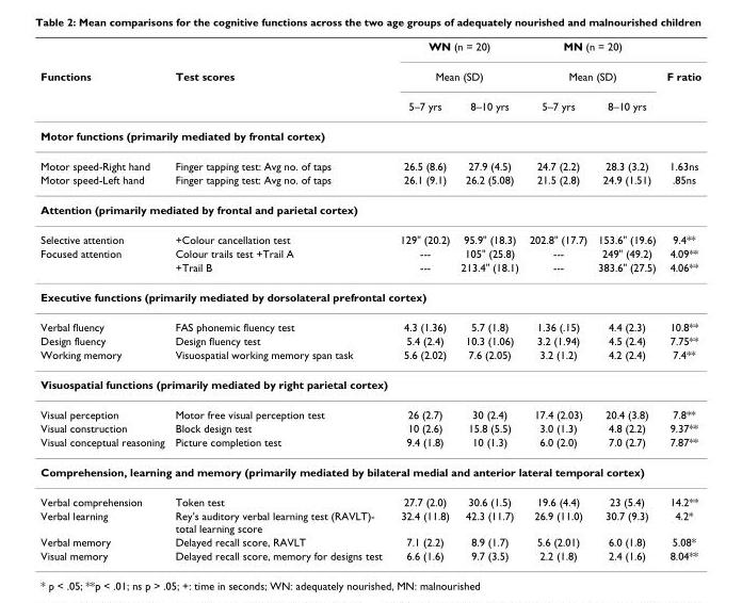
<table><thead><tr><td rowspan="3">Functions</td><td rowspan="3">Test scores</td><td rowspan="2" colspan="2">WN (n = 20) Mean (SD)</td><td rowspan="2" colspan="2">MN (n = 20) Mean (SD)</td><td rowspan="3">F ratio</td></tr><tr></tr><tr><td>5–7 yrs</td><td>8–10 yrs</td><td>5–7 yrs</td><td>8–10 yrs</td></tr></thead><tbody><tr><td colspan="7">Motor functions (primarily mediated by frontal cortex)</td></tr><tr><td>Motor speed-Right hand</td><td>Finger tapping test: Avg no. of taps</td><td>26.5 (8.6)</td><td>27.9 (4.5)</td><td>24.7 (2.2)</td><td>28.3 (3.2)</td><td>1.63ns</td></tr><tr><td>Motor speed-Left hand</td><td>Finger tapping test: Avg no. of taps</td><td>26.1 (9.1)</td><td>26.2 (5.08)</td><td>21.5 (2.8)</td><td>24.9 (1.51)</td><td>.85ns</td></tr><tr><td colspan="7">Attention (primarily mediated by frontal and parietal cortex)</td></tr><tr><td>Selective attention</td><td>+Colour cancellation test</td><td>129&quot; (20.2)</td><td>95.9&quot; (18.3)</td><td>202.8&quot; (17.7)</td><td>153.6&quot; (19.6)</td><td>9.4**</td></tr><tr><td rowspan="2">Focused attention</td><td>Colour trails test +Trail A</td><td>---</td><td>105&quot; (25.8)</td><td>---</td><td>249&quot; (49.2)</td><td>4.09**</td></tr><tr><td>+Trail B</td><td>---</td><td>213.4&quot; (18.1)</td><td>---</td><td>383.6&quot; (27.5)</td><td>4.06**</td></tr><tr><td colspan="7">Executive functions (primarily mediated by dorsolateral prefrontal cortex)</td></tr><tr><td>Verbal fluency</td><td>FAS phonemic fluency test</td><td>4.3 (1.36)</td><td>5.7 (1.8)</td><td>1.36 (.15)</td><td>4.4 (2.3)</td><td>10.8**</td></tr><tr><td>Design fluency</td><td>Design fluency test</td><td>5.4 (2.4)</td><td>10.3 (1.06)</td><td>3.2 (1.94)</td><td>4.5 (2.4)</td><td>7.75**</td></tr><tr><td>Working memory</td><td>Visuospatial working memory span task</td><td>5.6 (2.02)</td><td>7.6 (2.05)</td><td>3.2 (1.2)</td><td>4.2 (2.4)</td><td>7.4**</td></tr><tr><td colspan="7">Visuospatial functions (primarily mediated by right parietal cortex)</td></tr><tr><td>Visual perception</td><td>Motor free visual perception test</td><td>26 (2.7)</td><td>30 (2.4)</td><td>17.4 (2.03)</td><td>20.4 (3.8)</td><td>7.8**</td></tr><tr><td>Visual construction</td><td>Block design test</td><td>10 (2.6)</td><td>15.8 (5.5)</td><td>3.0 (1.3)</td><td>4.8 (2.2)</td><td>9.37**</td></tr><tr><td>Visual conceptual reasoning</td><td>Picture completion test</td><td>9.4 (1.8)</td><td>10 (1.3)</td><td>6.0 (2.0)</td><td>7.0 (2.7)</td><td>7.87**</td></tr><tr><td colspan="7">Comprehension, learning and memory (primarily mediated by bilateral medial and anterior lateral temporal cortex)</td></tr><tr><td>Verbal comprehension</td><td>Token test</td><td>27.7 (2.0)</td><td>30.6 (1.5)</td><td>19.6 (4.4)</td><td>23 (5.4)</td><td>14.2**</td></tr><tr><td>Verbal learning</td><td>Rey&#x27;s auditory verbal learning test (RAVLT)- total learning score</td><td>32.4 (11.8)</td><td>42.3 (11.7)</td><td>26.9 (11.0)</td><td>30.7 (9.3)</td><td>4.2*</td></tr><tr><td>Verbal memory</td><td>Delayed recall score, RAVLT</td><td>7.1 (2.2)</td><td>8.9 (1.7)</td><td>5.6 (2.01)</td><td>6.0 (1.8)</td><td>5.08*</td></tr><tr><td>Visual memory</td><td>Delayed recall score, memory for designs test</td><td>6.6 (1.6)</td><td>9.7 (3.5)</td><td>2.2 (1.8)</td><td>2.4 (1.6)</td><td>8.04**</td></tr></tbody></table>